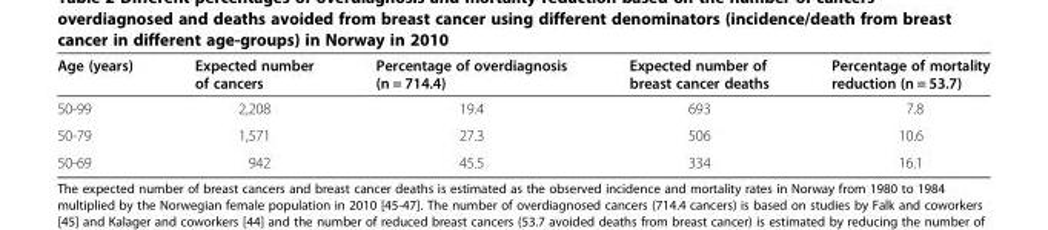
<table><thead><tr><td>Age (years)</td><td>Expected number of cancers</td><td>Percentage of overdiagnosis (n = 714.4)</td><td>Expected number of breast cancer deaths</td><td>Percentage of mortality reduction (n = 53.7)</td></tr></thead><tbody><tr><td>50-99</td><td>2,208</td><td>19.4</td><td>693</td><td>7.8</td></tr><tr><td>50-79</td><td>1,571</td><td>27.3</td><td>506</td><td>10.6</td></tr><tr><td>50-69</td><td>942</td><td>45.5</td><td>334</td><td>16.1</td></tr></tbody></table>